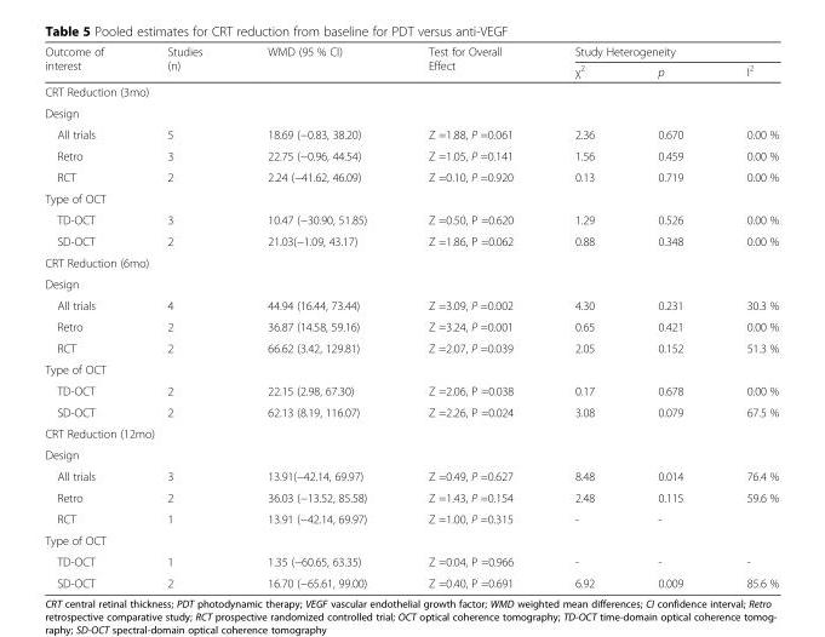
<table><thead><tr><td rowspan="2">Outcome of interest</td><td rowspan="2">Studies (n)</td><td rowspan="2">WMD (95 % CI)</td><td rowspan="2">Test for Overall Effect</td><td colspan="3">Study Heterogeneity</td></tr><tr><td>χ<sup>2</sup></td><td>p</td><td>I<sup>2</sup></td></tr></thead><tbody><tr><td colspan="7">CRT Reduction (3mo)</td></tr><tr><td colspan="7">Design</td></tr><tr><td>All trials</td><td>5</td><td>18.69 (−0.83, 38.20)</td><td>Z =1.88, P =0.061</td><td>2.36</td><td>0.670</td><td>0.00 %</td></tr><tr><td>Retro</td><td>3</td><td>22.75 (−0.96, 44.54)</td><td>Z =1.05, P =0.141</td><td>1.56</td><td>0.459</td><td>0.00 %</td></tr><tr><td>RCT</td><td>2</td><td>2.24 (−41.62, 46.09)</td><td>Z =0.10, P =0.920</td><td>0.13</td><td>0.719</td><td>0.00 %</td></tr><tr><td colspan="7">Type of OCT</td></tr><tr><td>TD-OCT</td><td>3</td><td>10.47 (−30.90, 51.85)</td><td>Z =0.50, P =0.620</td><td>1.29</td><td>0.526</td><td>0.00 %</td></tr><tr><td>SD-OCT</td><td>2</td><td>21.03(−1.09, 43.17)</td><td>Z =1.86, P =0.062</td><td>0.88</td><td>0.348</td><td>0.00 %</td></tr><tr><td colspan="7">CRT Reduction (6mo)</td></tr><tr><td colspan="7">Design</td></tr><tr><td>All trials</td><td>4</td><td>44.94 (16.44, 73.44)</td><td>Z =3.09, P =0.002</td><td>4.30</td><td>0.231</td><td>30.3 %</td></tr><tr><td>Retro</td><td>2</td><td>36.87 (14.58, 59.16)</td><td>Z =3.24, P =0.001</td><td>0.65</td><td>0.421</td><td>0.00 %</td></tr><tr><td>RCT</td><td>2</td><td>66.62 (3.42, 129.81)</td><td>Z =2.07, P =0.039</td><td>2.05</td><td>0.152</td><td>51.3 %</td></tr><tr><td colspan="7">Type of OCT</td></tr><tr><td>TD-OCT</td><td>2</td><td>22.15 (2.98, 67.30)</td><td>Z =2.06, P =0.038</td><td>0.17</td><td>0.678</td><td>0.00 %</td></tr><tr><td>SD-OCT</td><td>2</td><td>62.13 (8.19, 116.07)</td><td>Z =2.26, P =0.024</td><td>3.08</td><td>0.079</td><td>67.5 %</td></tr><tr><td colspan="7">CRT Reduction (12mo)</td></tr><tr><td colspan="7">Design</td></tr><tr><td>All trials</td><td>3</td><td>13.91(−42.14, 69.97)</td><td>Z =0.49, P =0.627</td><td>8.48</td><td>0.014</td><td>76.4 %</td></tr><tr><td>Retro</td><td>2</td><td>36.03 (−13.52, 85.58)</td><td>Z =1.43, P =0.154</td><td>2.48</td><td>0.115</td><td>59.6 %</td></tr><tr><td>RCT</td><td>1</td><td>13.91 (−42.14, 69.97)</td><td>Z =1.00, P =0.315</td><td>-</td><td>-</td><td></td></tr><tr><td colspan="7">Type of OCT</td></tr><tr><td>TD-OCT</td><td>1</td><td>1.35 (−60.65, 63.35)</td><td>Z =0.04, P =0.966</td><td>-</td><td>-</td><td>-</td></tr><tr><td>SD-OCT</td><td>2</td><td>16.70 (−65.61, 99.00)</td><td>Z =0.40, P =0.691</td><td>6.92</td><td>0.009</td><td>85.6 %</td></tr></tbody></table>